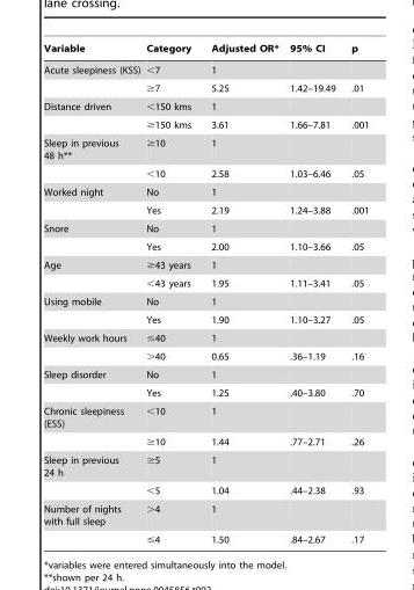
<table><thead><tr><td>Variable</td><td>Category</td><td>Adjusted OR*</td><td>95% CI</td><td>p</td></tr></thead><tbody><tr><td rowspan="2">Acute sleepiness (KSS)</td><td>&lt;7</td><td>1</td><td></td><td></td></tr><tr><td>≥7</td><td>5.25</td><td>1.42–19.49</td><td>.01</td></tr><tr><td rowspan="2">Distance driven</td><td>&lt;150 kms</td><td>1</td><td></td><td></td></tr><tr><td>≥150 kms</td><td>3.61</td><td>1.66–7.81</td><td>.001</td></tr><tr><td rowspan="2">Sleep in previous 48 h**</td><td>≥10</td><td>1</td><td></td><td></td></tr><tr><td>&lt;10</td><td>2.58</td><td>1.03–6.46</td><td>.05</td></tr><tr><td rowspan="2">Worked night</td><td>No</td><td>1</td><td></td><td></td></tr><tr><td>Yes</td><td>2.19</td><td>1.24–3.88</td><td>.001</td></tr><tr><td rowspan="2">Snore</td><td>No</td><td>1</td><td></td><td></td></tr><tr><td>Yes</td><td>2.00</td><td>1.10–3.66</td><td>.05</td></tr><tr><td rowspan="2">Age</td><td>≥43 years</td><td>1</td><td></td><td></td></tr><tr><td>&lt;43 years</td><td>1.95</td><td>1.11–3.41</td><td>.05</td></tr><tr><td rowspan="2">Using mobile</td><td>No</td><td>1</td><td></td><td></td></tr><tr><td>Yes</td><td>1.90</td><td>1.10–3.27</td><td>.05</td></tr><tr><td rowspan="2">Weekly work hours</td><td>≤40</td><td>1</td><td></td><td></td></tr><tr><td>&gt;40</td><td>0.65</td><td>.36–1.19</td><td>.16</td></tr><tr><td rowspan="2">Sleep disorder</td><td>No</td><td>1</td><td></td><td></td></tr><tr><td>Yes</td><td>1.25</td><td>.40–3.80</td><td>.70</td></tr><tr><td rowspan="2">Chronic sleepiness (ESS)</td><td>&lt;10</td><td>1</td><td></td><td></td></tr><tr><td>≥10</td><td>1.44</td><td>.77–2.71</td><td>.26</td></tr><tr><td rowspan="2">Sleep in previous 24 h</td><td>≥5</td><td>1</td><td></td><td></td></tr><tr><td>&lt;5</td><td>1.04</td><td>.44–2.38</td><td>.93</td></tr><tr><td rowspan="2">Number of nights with full sleep</td><td>&gt;4</td><td>1</td><td></td><td></td></tr><tr><td>≤4</td><td>1.50</td><td>.84–2.67</td><td>.17</td></tr></tbody></table>